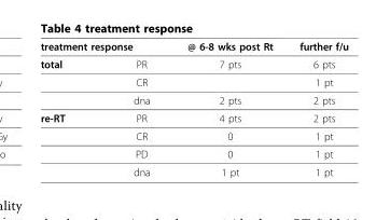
<table><thead><tr><td colspan="2">treatment response</td><td rowspan="2">@ 6-8 wks post Rt 7 pts</td><td rowspan="2">further f/u 6 pts</td></tr><tr><td>total</td><td>PR</td></tr></thead><tbody><tr><td></td><td>CR</td><td></td><td>1 pt</td></tr><tr><td></td><td>dna</td><td>2 pts</td><td>2 pts</td></tr><tr><td rowspan="4">re-RT</td><td>PR</td><td>4 pts</td><td>2 pts</td></tr><tr><td>CR</td><td>0</td><td>1 pt</td></tr><tr><td>PD</td><td>0</td><td>1 pt</td></tr><tr><td>dna</td><td>1 pt</td><td>1 pt</td></tr></tbody></table>